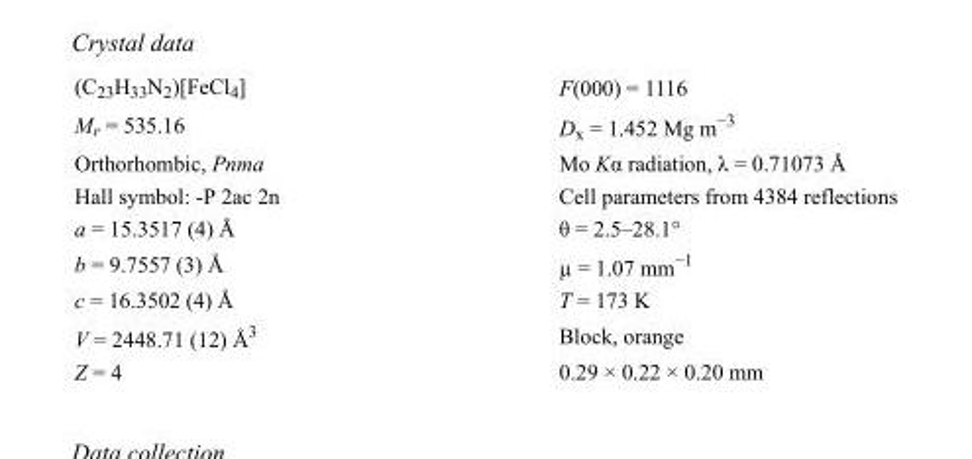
<table><tbody><tr><td>(C<sub>23</sub>H<sub>33</sub>N<sub>2</sub>)[FeCl<sub>4</sub>]</td><td>F(000) = 1116</td></tr><tr><td>M<sub>r</sub> = 535.16</td><td>D<sub>x</sub> = 1.452 Mg m<sup>−3</sup></td></tr><tr><td>Orthorhombic, Pnma</td><td>Mo Kα radiation, λ = 0.71073 Å</td></tr><tr><td>Hall symbol: -P 2ac 2n</td><td>Cell parameters from 4384 reflections</td></tr><tr><td>a = 15.3517 (4) Å</td><td>θ = 2.5–28.1°</td></tr><tr><td>b = 9.7557 (3) Å</td><td>µ = 1.07 mm<sup>−1</sup></td></tr><tr><td>c = 16.3502 (4) Å</td><td>T = 173 K</td></tr><tr><td>V = 2448.71 (12) Å<sup>3</sup></td><td>Block, orange</td></tr><tr><td>Z = 4</td><td>0.29 × 0.22 × 0.20 mm</td></tr></tbody></table>